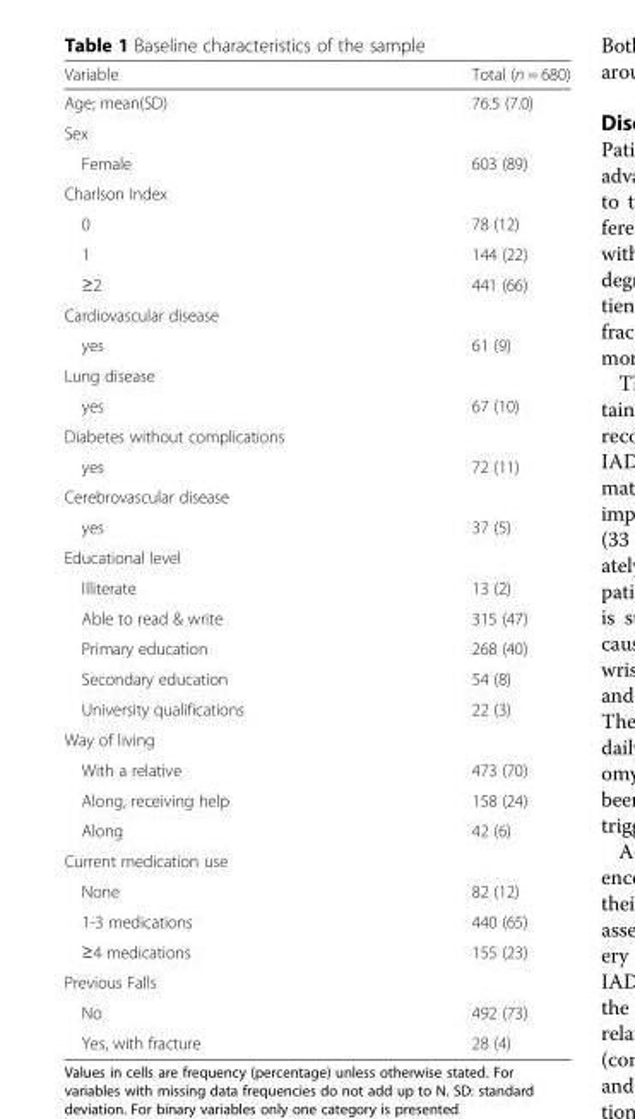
<table><thead><tr><td>Variable</td><td>Total (n = 680)</td></tr></thead><tbody><tr><td>Age; mean(SD)</td><td>76.5 (7.0)</td></tr><tr><td colspan="2">Sex</td></tr><tr><td>Female</td><td>603 (89)</td></tr><tr><td colspan="2">Charlson Index</td></tr><tr><td>0</td><td>78 (12)</td></tr><tr><td>1</td><td>144 (22)</td></tr><tr><td>≥2</td><td>441 (66)</td></tr><tr><td colspan="2">Cardiovascular disease</td></tr><tr><td>yes</td><td>61 (9)</td></tr><tr><td colspan="2">Lung disease</td></tr><tr><td>yes</td><td>67 (10)</td></tr><tr><td colspan="2">Diabetes without complications</td></tr><tr><td>yes</td><td>72 (11)</td></tr><tr><td colspan="2">Cerebrovascular disease</td></tr><tr><td>yes</td><td>37 (5)</td></tr><tr><td colspan="2">Educational level</td></tr><tr><td>Illiterate</td><td>13 (2)</td></tr><tr><td>Able to read &amp; write</td><td>315 (47)</td></tr><tr><td>Primary education</td><td>268 (40)</td></tr><tr><td>Secondary education</td><td>54 (8)</td></tr><tr><td>University qualifications</td><td>22 (3)</td></tr><tr><td colspan="2">Way of living</td></tr><tr><td>With a relative</td><td>473 (70)</td></tr><tr><td>Along, receiving help</td><td>158 (24)</td></tr><tr><td>Along</td><td>42 (6)</td></tr><tr><td colspan="2">Current medication use</td></tr><tr><td>None</td><td>82 (12)</td></tr><tr><td>1-3 medications</td><td>440 (65)</td></tr><tr><td>≥4 medications</td><td>155 (23)</td></tr><tr><td colspan="2">Previous Falls</td></tr><tr><td>No</td><td>492 (73)</td></tr><tr><td>Yes, with fracture</td><td>28 (4)</td></tr></tbody></table>